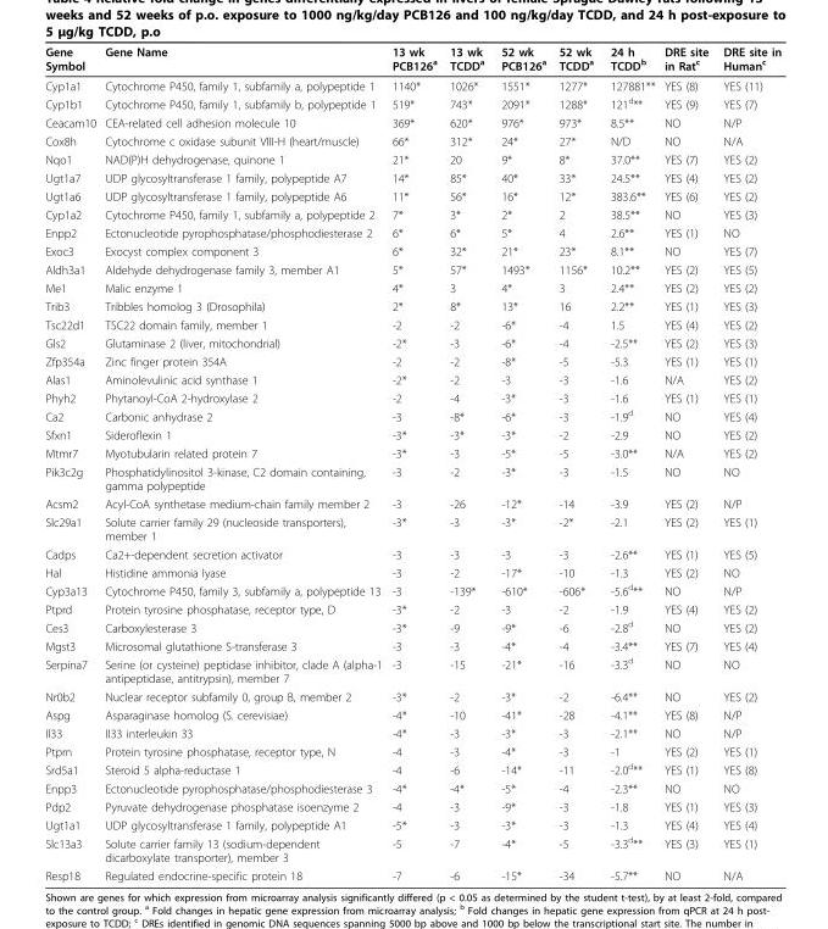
<table><thead><tr><td>Gene Symbol</td><td>Gene Name</td><td>13 wk PCB126<sup>a</sup></td><td>13 wk TCDD<sup>a</sup></td><td>52 wk PCB126<sup>a</sup></td><td>52 wk TCDD<sup>a</sup></td><td>24 h TCDD<sup>b</sup></td><td>DRE site in Rat<sup>c</sup></td><td>DRE site in Human<sup>c</sup></td></tr></thead><tbody><tr><td>Cyp1a1</td><td>Cytochrome P450, family 1, subfamily a, polypeptide 1</td><td>1140*</td><td>1026*</td><td>1551*</td><td>1277*</td><td>127881**</td><td>YES (8)</td><td>YES (11)</td></tr><tr><td>Cyp1b1</td><td>Cytochrome P450, family 1, subfamily b, polypeptide 1</td><td>519*</td><td>743*</td><td>2091*</td><td>1288*</td><td>121<sup>d</sup>**</td><td>YES (9)</td><td>YES (7)</td></tr><tr><td>Ceacam10</td><td>CEA-related cell adhesion molecule 10</td><td>369*</td><td>620*</td><td>976*</td><td>973*</td><td>8.5**</td><td>NO</td><td>N/P</td></tr><tr><td>Cox8h</td><td>Cytochrome c oxidase subunit VIII-H (heart/muscle)</td><td>66*</td><td>312*</td><td>24*</td><td>27*</td><td>N/D</td><td>NO</td><td>N/A</td></tr><tr><td>Nqo1</td><td>NAD(P)H dehydrogenase, quinone 1</td><td>21*</td><td>20</td><td>9*</td><td>8*</td><td>37.0**</td><td>YES (7)</td><td>YES (2)</td></tr><tr><td>Ugt1a7</td><td>UDP glycosyltransferase 1 family, polypeptide A7</td><td>14*</td><td>85*</td><td>40*</td><td>33*</td><td>24.5**</td><td>YES (4)</td><td>YES (2)</td></tr><tr><td>Ugt1a6</td><td>UDP glycosyltransferase 1 family, polypeptide A6</td><td>11*</td><td>56*</td><td>16*</td><td>12*</td><td>383.6**</td><td>YES (6)</td><td>YES (2)</td></tr><tr><td>Cyp1a2</td><td>Cytochrome P450, family 1, subfamily a, polypeptide 2</td><td>7*</td><td>3*</td><td>2*</td><td>2</td><td>38.5**</td><td>NO</td><td>YES (3)</td></tr><tr><td>Enpp2</td><td>Ectonucleotide pyrophosphatase/phosphodiesterase 2</td><td>6*</td><td>6*</td><td>5*</td><td>4</td><td>2.6**</td><td>YES (1)</td><td>NO</td></tr><tr><td>Exoc3</td><td>Exocyst complex component 3</td><td>6*</td><td>32*</td><td>21*</td><td>23*</td><td>8.1**</td><td>NO</td><td>YES (7)</td></tr><tr><td>Aldh3a1</td><td>Aldehyde dehydrogenase family 3, member A1</td><td>5*</td><td>57*</td><td>1493*</td><td>1156*</td><td>10.2**</td><td>YES (2)</td><td>YES (5)</td></tr><tr><td>Me1</td><td>Malic enzyme 1</td><td>4*</td><td>3</td><td>4*</td><td>3</td><td>2.4**</td><td>YES (2)</td><td>YES (2)</td></tr><tr><td>Trib3</td><td>Tribbles homolog 3 (Drosophila)</td><td>2*</td><td>8*</td><td>13*</td><td>16</td><td>2.2**</td><td>YES (1)</td><td>YES (3)</td></tr><tr><td>Tsc22d1</td><td>TSC22 domain family, member 1</td><td>-2</td><td>-2</td><td>-6*</td><td>-4</td><td>1.5</td><td>YES (4)</td><td>YES (2)</td></tr><tr><td>Gls2</td><td>Glutaminase 2 (liver, mitochondrial)</td><td>-2*</td><td>-3</td><td>-6*</td><td>-4</td><td>-2.5**</td><td>YES (2)</td><td>YES (3)</td></tr><tr><td>Zfp354a</td><td>Zinc finger protein 354A</td><td>-2</td><td>-2</td><td>-8*</td><td>-5</td><td>-5.3</td><td>YES (1)</td><td>YES (1)</td></tr><tr><td>Alas1</td><td>Aminolevulinic acid synthase 1</td><td>-2*</td><td>-2</td><td>-3</td><td>-3</td><td>-1.6</td><td>N/A</td><td>YES (2)</td></tr><tr><td>Phyh2</td><td>Phytanoyl-CoA 2-hydroxylase 2</td><td>-2</td><td>-4</td><td>-3*</td><td>-3</td><td>-1.6</td><td>YES (1)</td><td>YES (1)</td></tr><tr><td>Ca2</td><td>Carbonic anhydrase 2</td><td>-3</td><td>-8*</td><td>-6*</td><td>-3</td><td>-1.9<sup>d</sup></td><td>NO</td><td>YES (4)</td></tr><tr><td>Sfxn1</td><td>Sideroflexin 1</td><td>-3*</td><td>-3*</td><td>-3*</td><td>-2</td><td>-2.9</td><td>NO</td><td>YES (2)</td></tr><tr><td>Mtmr7</td><td>Myotubularin related protein 7</td><td>-3*</td><td>-3</td><td>-5*</td><td>-5</td><td>-3.0**</td><td>N/A</td><td>YES (2)</td></tr><tr><td>Pik3c2g</td><td>Phosphatidylinositol 3-kinase, C2 domain containing, gamma polypeptide</td><td>-3</td><td>-2</td><td>-3*</td><td>-3</td><td>-1.5</td><td>NO</td><td>NO</td></tr><tr><td>Acsm2</td><td>Acyl-CoA synthetase medium-chain family member 2</td><td>-3</td><td>-26</td><td>-12*</td><td>-14</td><td>-3.9</td><td>YES (2)</td><td>N/P</td></tr><tr><td>Slc29a1</td><td>Solute carrier family 29 (nucleoside transporters), member 1</td><td>-3*</td><td>-3</td><td>-3*</td><td>-2*</td><td>-2.1</td><td>YES (2)</td><td>YES (1)</td></tr><tr><td>Cadps</td><td>Ca2+-dependent secretion activator</td><td>-3</td><td>-3</td><td>-3</td><td>-3</td><td>-2.6**</td><td>YES (1)</td><td>YES (5)</td></tr><tr><td>Hal</td><td>Histidine ammonia lyase</td><td>-3</td><td>-2</td><td>-17*</td><td>-10</td><td>-1.3</td><td>YES (2)</td><td>NO</td></tr><tr><td>Cyp3a13</td><td>Cytochrome P450, family 3, subfamily a, polypeptide 13</td><td>-3</td><td>-139*</td><td>-610*</td><td>-606*</td><td>-5.6<sup>d</sup>**</td><td>NO</td><td>N/P</td></tr><tr><td>Ptprd</td><td>Protein tyrosine phosphatase, receptor type, D</td><td>-3*</td><td>-2</td><td>-3</td><td>-2</td><td>-1.9</td><td>YES (4)</td><td>YES (2)</td></tr><tr><td>Ces3</td><td>Carboxylesterase 3</td><td>-3*</td><td>-9</td><td>-9*</td><td>-6</td><td>-2.8<sup>d</sup></td><td>NO</td><td>YES (2)</td></tr><tr><td>Mgst3</td><td>Microsomal glutathione S-transferase 3</td><td>-3</td><td>-3</td><td>-4*</td><td>-4</td><td>-3.4**</td><td>YES (7)</td><td>YES (4)</td></tr><tr><td>Serpina7</td><td>Serine (or cysteine) peptidase inhibitor, clade A (alpha-1 antipeptidase, antitrypsin), member 7</td><td>-3</td><td>-15</td><td>-21*</td><td>-16</td><td>-3.3<sup>d</sup></td><td>NO</td><td>NO</td></tr><tr><td>Nr0b2</td><td>Nuclear receptor subfamily 0, group B, member 2</td><td>-3*</td><td>-2</td><td>-3*</td><td>-2</td><td>-6.4**</td><td>NO</td><td>YES (2)</td></tr><tr><td>Aspg</td><td>Asparaginase homolog (S. cerevisiae)</td><td>-4*</td><td>-10</td><td>-41*</td><td>-28</td><td>-4.1**</td><td>YES (8)</td><td>N/P</td></tr><tr><td>Il33</td><td>Il33 interleukin 33</td><td>-4*</td><td>-3</td><td>-3*</td><td>-3</td><td>-2.1**</td><td>NO</td><td>N/P</td></tr><tr><td>Ptprn</td><td>Protein tyrosine phosphatase, receptor type, N</td><td>-4</td><td>-3</td><td>-4*</td><td>-3</td><td>-1</td><td>YES (2)</td><td>YES (1)</td></tr><tr><td>Srd5a1</td><td>Steroid 5 alpha-reductase 1</td><td>-4</td><td>-6</td><td>-14*</td><td>-11</td><td>-2.0<sup>d</sup>**</td><td>YES (1)</td><td>YES (8)</td></tr><tr><td>Enpp3</td><td>Ectonucleotide pyrophosphatase/phosphodiesterase 3</td><td>-4*</td><td>-4*</td><td>-5*</td><td>-4</td><td>-2.3**</td><td>NO</td><td>NO</td></tr><tr><td>Pdp2</td><td>Pyruvate dehydrogenase phosphatase isoenzyme 2</td><td>-4</td><td>-3</td><td>-9*</td><td>-3</td><td>-1.8</td><td>YES (1)</td><td>YES (3)</td></tr><tr><td>Ugt1a1</td><td>UDP glycosyltransferase 1 family, polypeptide A1</td><td>-5*</td><td>-3</td><td>-3*</td><td>-3</td><td>-1.3</td><td>YES (4)</td><td>YES (4)</td></tr><tr><td>Slc13a3</td><td>Solute carrier family 13 (sodium-dependent dicarboxylate transporter), member 3</td><td>-5</td><td>-7</td><td>-4*</td><td>-5</td><td>-3.3<sup>d</sup>**</td><td>YES (3)</td><td>YES (1)</td></tr><tr><td>Resp18</td><td>Regulated endocrine-specific protein 18</td><td>-7</td><td>-6</td><td>-15*</td><td>-34</td><td>-5.7**</td><td>NO</td><td>N/A</td></tr></tbody></table>